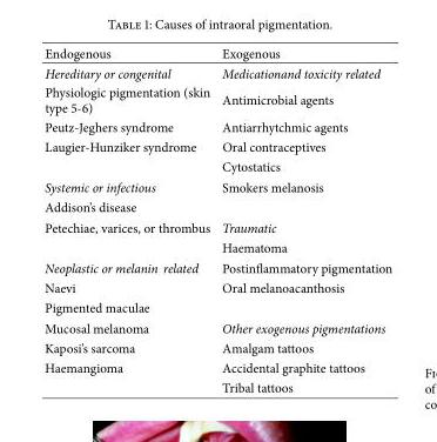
<table><thead><tr><td>Endogenous</td><td>Exogenous</td></tr></thead><tbody><tr><td>Hereditary or congenital</td><td>Medicationand toxicity related</td></tr><tr><td>Physiologic pigmentation (skin type 5-6)</td><td>Antimicrobial agents</td></tr><tr><td>Peutz-Jeghers syndrome</td><td>Antiarrhytchmic agents</td></tr><tr><td rowspan="2">Laugier-Hunziker syndrome</td><td>Oral contraceptives</td></tr><tr><td>Cytostatics</td></tr><tr><td>Systemic or infectious</td><td>Smokers melanosis</td></tr><tr><td colspan="2">Addison’s disease</td></tr><tr><td rowspan="2">Petechiae, varices, or thrombus</td><td>Traumatic</td></tr><tr><td>Haematoma</td></tr><tr><td>Neoplastic or melanin related</td><td>Postinflammatory pigmentation</td></tr><tr><td>Naevi</td><td>Oral melanoacanthosis</td></tr><tr><td colspan="2">Pigmented maculae</td></tr><tr><td>Mucosal melanoma</td><td>Other exogenous pigmentations</td></tr><tr><td>Kaposi’s sarcoma</td><td>Amalgam tattoos</td></tr><tr><td rowspan="2">Haemangioma</td><td>Accidental graphite tattoos</td></tr><tr><td>Tribal tattoos</td></tr></tbody></table>